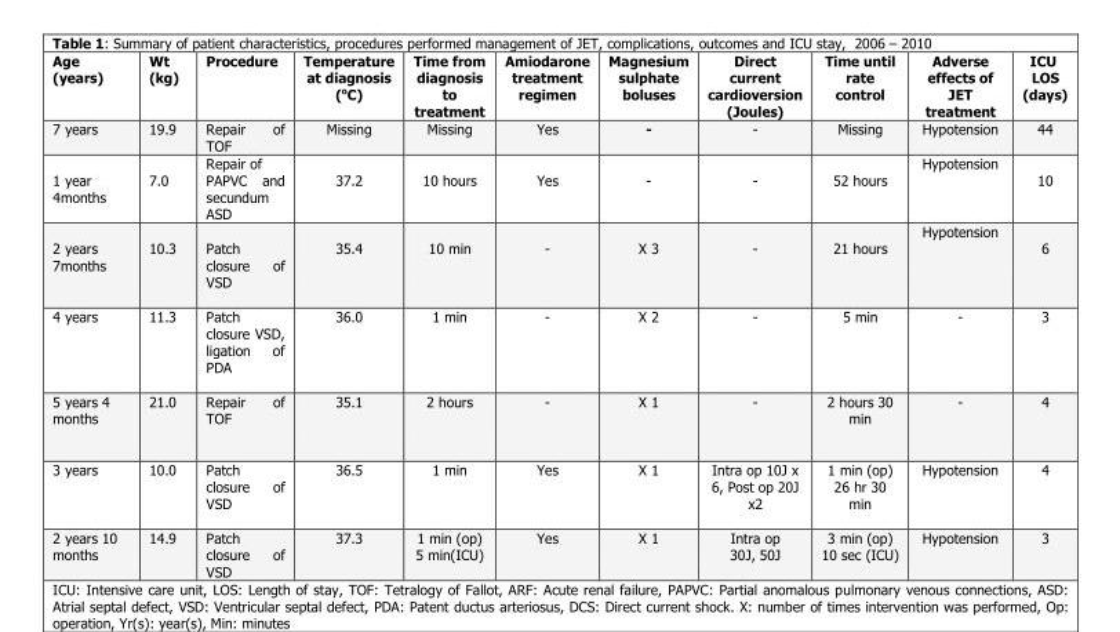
<table><thead><tr><td>Age (years)</td><td>Wt (kg)</td><td>Procedure</td><td>Temperature at diagnosis (<sup>o</sup>C)</td><td>Time from diagnosis to treatment</td><td>Amiodarone treatment regimen</td><td>Magnesium sulphate boluses</td><td>Direct current cardioversion (Joules)</td><td>Time until rate control</td><td>Adverse effects of JET treatment</td><td>ICU LOS (days)</td></tr></thead><tbody><tr><td>7 years</td><td>19.9</td><td>Repair of TOF</td><td>Missing</td><td>Missing</td><td>Yes</td><td>-</td><td>-</td><td>Missing</td><td>Hypotension</td><td>44</td></tr><tr><td>1 year 4months</td><td>7.0</td><td>Repair of PAPVC and secundum ASD</td><td>37.2</td><td>10 hours</td><td>Yes</td><td>-</td><td>-</td><td>52 hours</td><td>Hypotension</td><td>10</td></tr><tr><td>2 years 7months</td><td>10.3</td><td>Patch closure of VSD</td><td>35.4</td><td>10 min</td><td>-</td><td>X 3</td><td>-</td><td>21 hours</td><td>Hypotension</td><td>6</td></tr><tr><td>4 years</td><td>11.3</td><td>Patch closure VSD, ligation of PDA</td><td>36.0</td><td>1 min</td><td>-</td><td>X 2</td><td>-</td><td>5 min</td><td>-</td><td>3</td></tr><tr><td>5 years 4 months</td><td>21.0</td><td>Repair of TOF</td><td>35.1</td><td>2 hours</td><td>-</td><td>X 1</td><td>-</td><td>2 hours 30 min</td><td>-</td><td>4</td></tr><tr><td>3 years</td><td>10.0</td><td>Patch closure of VSD</td><td>36.5</td><td>1 min</td><td>Yes</td><td>X 1</td><td>Intra op 10J x 6, Post op 20J x2</td><td>1 min (op) 26 hr 30 min</td><td>Hypotension</td><td>4</td></tr><tr><td>2 years 10 months</td><td>14.9</td><td>Patch closure of VSD</td><td>37.3</td><td>1 min (op) 5 min(ICU)</td><td>Yes</td><td>X 1</td><td>Intra op 30J, 50J</td><td>3 min (op) 10 sec (ICU)</td><td>Hypotension</td><td>3</td></tr></tbody></table>